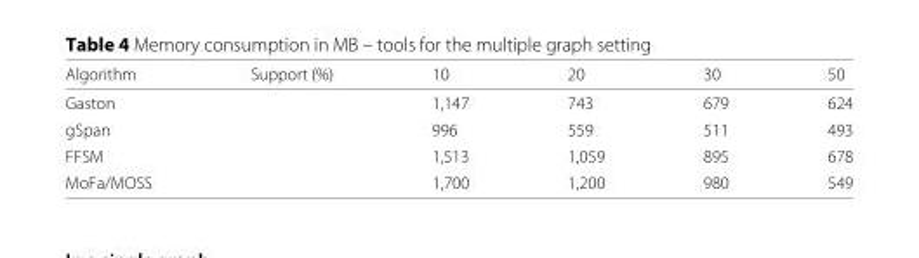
<table><thead><tr><td>Algorithm</td><td>Support (%)</td><td>10</td><td>20</td><td>30</td><td>50</td></tr></thead><tbody><tr><td>Gaston</td><td></td><td>1,147</td><td>743</td><td>679</td><td>624</td></tr><tr><td>gSpan</td><td></td><td>996</td><td>559</td><td>511</td><td>493</td></tr><tr><td>FFSM</td><td></td><td>1,513</td><td>1,059</td><td>895</td><td>678</td></tr><tr><td>MoFa/MOSS</td><td></td><td>1,700</td><td>1,200</td><td>980</td><td>549</td></tr></tbody></table>